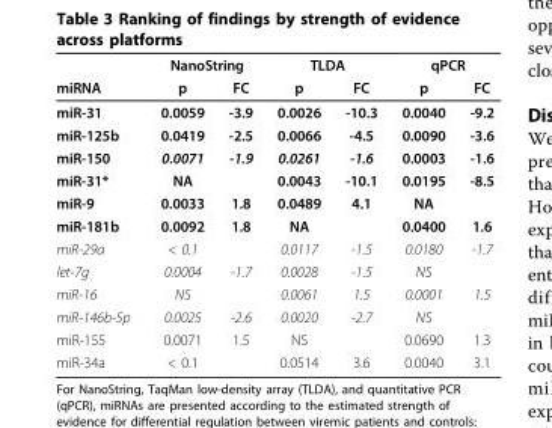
<table><thead><tr><td rowspan="2">miRNA</td><td colspan="2">NanoString</td><td colspan="2">TLDA</td><td colspan="2">qPCR</td></tr><tr><td>p</td><td>FC</td><td>p</td><td>FC</td><td>p</td><td>FC</td></tr></thead><tbody><tr><td>miR-31</td><td>0.0059</td><td>-3.9</td><td>0.0026</td><td>-10.3</td><td>0.0040</td><td>-9.2</td></tr><tr><td>miR-125b</td><td>0.0419</td><td>-2.5</td><td>0.0066</td><td>-4.5</td><td>0.0090</td><td>-3.6</td></tr><tr><td>miR-150</td><td>0.0071</td><td>-1.9</td><td>0.0261</td><td>-1.6</td><td>0.0003</td><td>-1.6</td></tr><tr><td>miR-31*</td><td>NA</td><td></td><td>0.0043</td><td>-10.1</td><td>0.0195</td><td>-8.5</td></tr><tr><td>miR-9</td><td>0.0033</td><td>1.8</td><td>0.0489</td><td>4.1</td><td>NA</td><td></td></tr><tr><td>miR-181b</td><td>0.0092</td><td>1.8</td><td>NA</td><td></td><td>0.0400</td><td>1.6</td></tr><tr><td>miR-29a</td><td>&lt; 0.1</td><td></td><td>0.0117</td><td>-1.5</td><td>0.0180</td><td>-1.7</td></tr><tr><td>let-7g</td><td>0.0004</td><td>-1.7</td><td>0.0028</td><td>-1.5</td><td>NS</td><td></td></tr><tr><td>miR-16</td><td>NS</td><td></td><td>0.0061</td><td>1.5</td><td>0.0001</td><td>1.5</td></tr><tr><td>miR-146b-5p</td><td>0.0025</td><td>-2.6</td><td>0.0020</td><td>-2.7</td><td>NS</td><td></td></tr><tr><td>miR-155</td><td>0.0071</td><td>1.5</td><td>NS</td><td></td><td>0.0690</td><td>1.3</td></tr><tr><td>miR-34a</td><td>&lt; 0.1</td><td></td><td>0.0514</td><td>3.6</td><td>0.0040</td><td>3.1</td></tr></tbody></table>